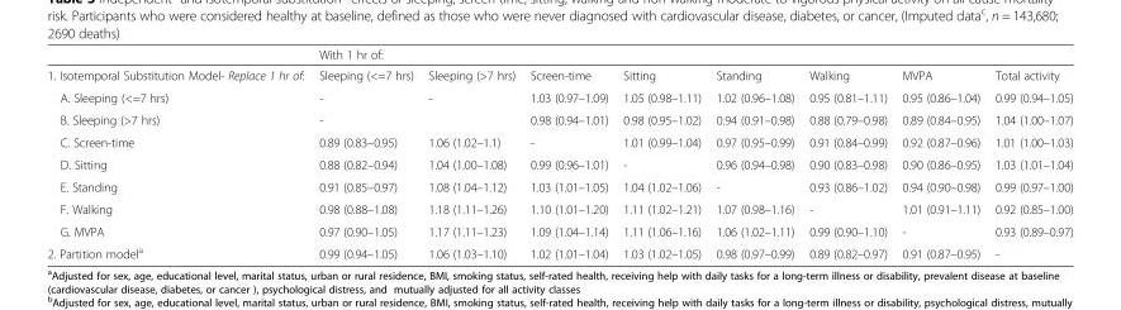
<table><thead><tr><td></td><td>With 1 hr of:</td><td></td><td></td><td></td><td></td><td></td><td></td><td></td></tr></thead><tbody><tr><td>1. Isotemporal Substitution Model- Replace 1 hr of:</td><td>Sleeping (&lt;=7 hrs)</td><td>Sleeping (&gt;7 hrs)</td><td>Screen-time</td><td>Sitting</td><td>Standing</td><td>Walking</td><td>MVPA</td><td>Total activity</td></tr><tr><td>A. Sleeping (&lt;=7 hrs)</td><td>-</td><td>-</td><td>1.03 (0.97–1.09)</td><td>1.05 (0.98–1.11)</td><td>1.02 (0.96–1.08)</td><td>0.95 (0.81–1.11)</td><td>0.95 (0.86–1.04)</td><td>0.99 (0.94–1.05)</td></tr><tr><td>B. Sleeping (&gt;7 hrs)</td><td>-</td><td></td><td>0.98 (0.94–1.01)</td><td>0.98 (0.95–1.02)</td><td>0.94 (0.91–0.98)</td><td>0.88 (0.79–0.98)</td><td>0.89 (0.84–0.95)</td><td>1.04 (1.00–1.07)</td></tr><tr><td>C. Screen-time</td><td>0.89 (0.83–0.95)</td><td>1.06 (1.02–1.1)</td><td>-</td><td>1.01 (0.99–1.04)</td><td>0.97 (0.95–0.99)</td><td>0.91 (0.84–0.99)</td><td>0.92 (0.87–0.96)</td><td>1.01 (1.00–1.03)</td></tr><tr><td>D. Sitting</td><td>0.88 (0.82–0.94)</td><td>1.04 (1.00–1.08)</td><td>0.99 (0.96–1.01)</td><td>-</td><td>0.96 (0.94–0.98)</td><td>0.90 (0.83–0.98)</td><td>0.90 (0.86–0.95)</td><td>1.03 (1.01–1.04)</td></tr><tr><td>E. Standing</td><td>0.91 (0.85–0.97)</td><td>1.08 (1.04–1.12)</td><td>1.03 (1.01–1.05)</td><td>1.04 (1.02–1.06)</td><td>-</td><td>0.93 (0.86–1.02)</td><td>0.94 (0.90–0.98)</td><td>0.99 (0.97–1.00)</td></tr><tr><td>F. Walking</td><td>0.98 (0.88–1.08)</td><td>1.18 (1.11–1.26)</td><td>1.10 (1.01–1.20)</td><td>1.11 (1.02–1.21)</td><td>1.07 (0.98–1.16)</td><td>-</td><td>1.01 (0.91–1.11)</td><td>0.92 (0.85–1.00)</td></tr><tr><td>G. MVPA</td><td>0.97 (0.90–1.05)</td><td>1.17 (1.11–1.23)</td><td>1.09 (1.04–1.14)</td><td>1.11 (1.06–1.16)</td><td>1.06 (1.02–1.11)</td><td>0.99 (0.90–1.10)</td><td>-</td><td>0.93 (0.89–0.97)</td></tr><tr><td>2. Partition model<sup>a</sup></td><td>0.99 (0.94–1.05)</td><td>1.06 (1.03–1.10)</td><td>1.02 (1.01–1.04)</td><td>1.03 (1.02–1.05)</td><td>0.98 (0.97–0.99)</td><td>0.89 (0.82–0.97)</td><td>0.91 (0.87–0.95)</td><td>-</td></tr></tbody></table>